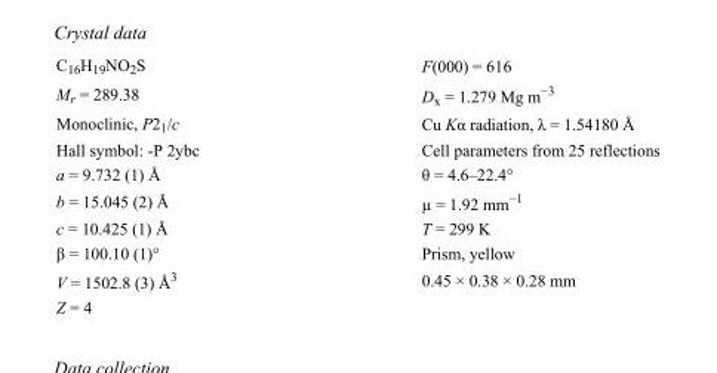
<table><tbody><tr><td>C<sub>16</sub>H<sub>19</sub>NO<sub>2</sub>S</td><td>F(000) = 616</td></tr><tr><td>M<sub>r</sub> = 289.38</td><td>D<sub>x</sub> = 1.279 Mg m<sup>−3</sup></td></tr><tr><td>Monoclinic, P2<sub>1</sub>/c</td><td>Cu Kα radiation, λ = 1.54180 Å</td></tr><tr><td>Hall symbol: -P 2ybc</td><td>Cell parameters from 25 reflections</td></tr><tr><td>a = 9.732 (1) Å</td><td>θ = 4.6–22.4°</td></tr><tr><td>b = 15.045 (2) Å</td><td>µ = 1.92 mm<sup>−1</sup></td></tr><tr><td>c = 10.425 (1) Å</td><td>T = 299 K</td></tr><tr><td>β = 100.10 (1)°</td><td>Prism, yellow</td></tr><tr><td>V = 1502.8 (3) Å<sup>3</sup></td><td>0.45 × 0.38 × 0.28 mm</td></tr><tr><td>Z = 4</td><td></td></tr></tbody></table>